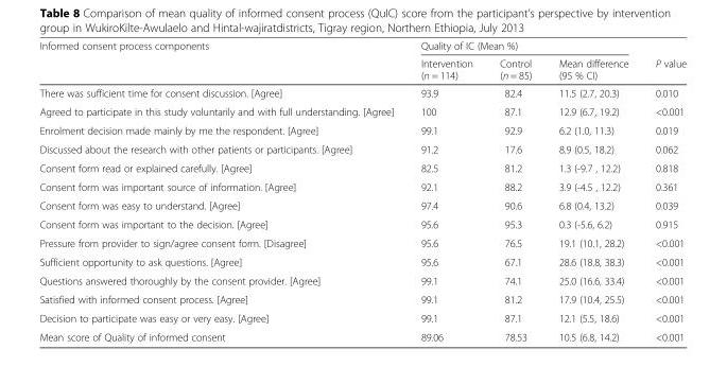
<table><thead><tr><td rowspan="2">Informed consent process components</td><td colspan="3">Quality of IC (Mean %)</td><td rowspan="2">P value</td></tr><tr><td>Intervention (n = 114)</td><td>Control (n = 85)</td><td>Mean difference (95 % CI)</td></tr></thead><tbody><tr><td>There was sufficient time for consent discussion. [Agree]</td><td>93.9</td><td>82.4</td><td>11.5 (2.7, 20.3)</td><td>0.010</td></tr><tr><td>Agreed to participate in this study voluntarily and with full understanding. [Agree]</td><td>100</td><td>87.1</td><td>12.9 (6.7, 19.2)</td><td>&lt;0.001</td></tr><tr><td>Enrolment decision made mainly by me the respondent. [Agree]</td><td>99.1</td><td>92.9</td><td>6.2 (1.0, 11.3)</td><td>0.019</td></tr><tr><td>Discussed about the research with other patients or participants. [Agree]</td><td>91.2</td><td>17.6</td><td>8.9 (0.5, 18.2)</td><td>0.062</td></tr><tr><td>Consent form read or explained carefully. [Agree]</td><td>82.5</td><td>81.2</td><td>1.3 (-9.7 , 12.2)</td><td>0.818</td></tr><tr><td>Consent form was important source of information. [Agree]</td><td>92.1</td><td>88.2</td><td>3.9 (-4.5 , 12.2)</td><td>0.361</td></tr><tr><td>Consent form was easy to understand. [Agree]</td><td>97.4</td><td>90.6</td><td>6.8 (0.4, 13.2)</td><td>0.039</td></tr><tr><td>Consent form was important to the decision. [Agree]</td><td>95.6</td><td>95.3</td><td>0.3 (-5.6, 6.2)</td><td>0.915</td></tr><tr><td>Pressure from provider to sign/agree consent form. [Disagree]</td><td>95.6</td><td>76.5</td><td>19.1 (10.1, 28.2)</td><td>&lt;0.001</td></tr><tr><td>Sufficient opportunity to ask questions. [Agree]</td><td>95.6</td><td>67.1</td><td>28.6 (18.8, 38.3)</td><td>&lt;0.001</td></tr><tr><td>Questions answered thoroughly by the consent provider. [Agree]</td><td>99.1</td><td>74.1</td><td>25.0 (16.6, 33.4)</td><td>&lt;0.001</td></tr><tr><td>Satisfied with informed consent process. [Agree]</td><td>99.1</td><td>81.2</td><td>17.9 (10.4, 25.5)</td><td>&lt;0.001</td></tr><tr><td>Decision to participate was easy or very easy. [Agree]</td><td>99.1</td><td>87.1</td><td>12.1 (5.5, 18.6)</td><td>&lt;0.001</td></tr><tr><td>Mean score of Quality of informed consent</td><td>89.06</td><td>78.53</td><td>10.5 (6.8, 14.2)</td><td>&lt;0.001</td></tr></tbody></table>